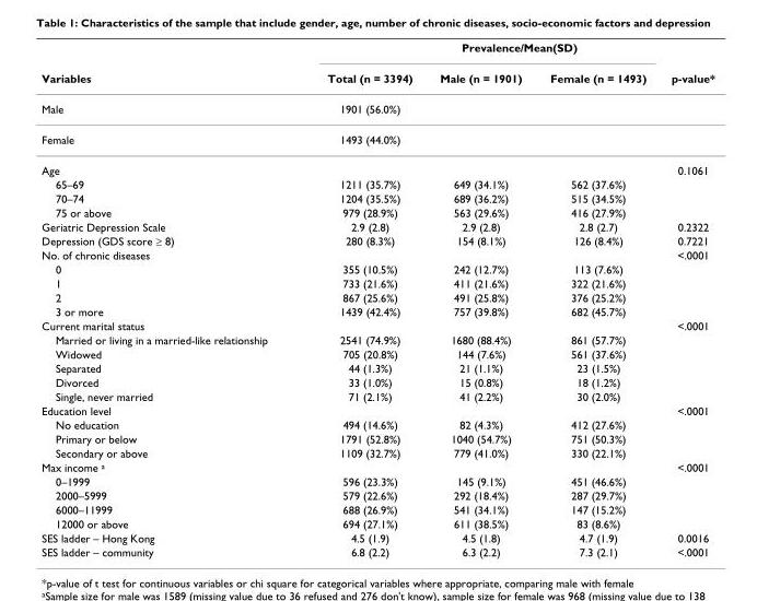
<table><thead><tr><td rowspan="2">Variables</td><td colspan="4">Prevalence/Mean(SD)</td></tr><tr><td>Total (n = 3394)</td><td>Male (n = 1901)</td><td>Female (n = 1493)</td><td>p-value*</td></tr></thead><tbody><tr><td>Male</td><td>1901 (56.0%)</td><td></td><td></td><td></td></tr><tr><td>Female</td><td>1493 (44.0%)</td><td></td><td></td><td></td></tr><tr><td>Age</td><td></td><td></td><td></td><td>0.1061</td></tr><tr><td>65–69</td><td>1211 (35.7%)</td><td>649 (34.1%)</td><td>562 (37.6%)</td><td></td></tr><tr><td>70–74</td><td>1204 (35.5%)</td><td>689 (36.2%)</td><td>515 (34.5%)</td><td></td></tr><tr><td>75 or above</td><td>979 (28.9%)</td><td>563 (29.6%)</td><td>416 (27.9%)</td><td></td></tr><tr><td>Geriatric Depression Scale</td><td>2.9 (2.8)</td><td>2.9 (2.8)</td><td>2.8 (2.7)</td><td>0.2322</td></tr><tr><td>Depression (GDS score ≥ 8)</td><td>280 (8.3%)</td><td>154 (8.1%)</td><td>126 (8.4%)</td><td>0.7221</td></tr><tr><td>No. of chronic diseases</td><td></td><td></td><td></td><td>&lt;.0001</td></tr><tr><td>0</td><td>355 (10.5%)</td><td>242 (12.7%)</td><td>113 (7.6%)</td><td></td></tr><tr><td>1</td><td>733 (21.6%)</td><td>411 (21.6%)</td><td>322 (21.6%)</td><td></td></tr><tr><td>2</td><td>867 (25.6%)</td><td>491 (25.8%)</td><td>376 (25.2%)</td><td></td></tr><tr><td>3 or more</td><td>1439 (42.4%)</td><td>757 (39.8%)</td><td>682 (45.7%)</td><td></td></tr><tr><td>Current marital status</td><td></td><td></td><td></td><td>&lt;.0001</td></tr><tr><td>Married or living in a married-like relationship</td><td>2541 (74.9%)</td><td>1680 (88.4%)</td><td>861 (57.7%)</td><td></td></tr><tr><td>Widowed</td><td>705 (20.8%)</td><td>144 (7.6%)</td><td>561 (37.6%)</td><td></td></tr><tr><td>Separated</td><td>44 (1.3%)</td><td>21 (1.1%)</td><td>23 (1.5%)</td><td></td></tr><tr><td>Divorced</td><td>33 (1.0%)</td><td>15 (0.8%)</td><td>18 (1.2%)</td><td></td></tr><tr><td>Single, never married</td><td>71 (2.1%)</td><td>41 (2.2%)</td><td>30 (2.0%)</td><td></td></tr><tr><td>Education level</td><td></td><td></td><td></td><td>&lt;.0001</td></tr><tr><td>No education</td><td>494 (14.6%)</td><td>82 (4.3%)</td><td>412 (27.6%)</td><td></td></tr><tr><td>Primary or below</td><td>1791 (52.8%)</td><td>1040 (54.7%)</td><td>751 (50.3%)</td><td></td></tr><tr><td>Secondary or above</td><td>1109 (32.7%)</td><td>779 (41.0%)</td><td>330 (22.1%)</td><td></td></tr><tr><td>Max income <sup>a</sup></td><td></td><td></td><td></td><td>&lt;.0001</td></tr><tr><td>0–1999</td><td>596 (23.3%)</td><td>145 (9.1%)</td><td>451 (46.6%)</td><td></td></tr><tr><td>2000–5999</td><td>579 (22.6%)</td><td>292 (18.4%)</td><td>287 (29.7%)</td><td></td></tr><tr><td>6000–11999</td><td>688 (26.9%)</td><td>541 (34.1%)</td><td>147 (15.2%)</td><td></td></tr><tr><td>12000 or above</td><td>694 (27.1%)</td><td>611 (38.5%)</td><td>83 (8.6%)</td><td></td></tr><tr><td>SES ladder – Hong Kong</td><td>4.5 (1.9)</td><td>4.5 (1.8)</td><td>4.7 (1.9)</td><td>0.0016</td></tr><tr><td>SES ladder – community</td><td>6.8 (2.2)</td><td>6.3 (2.2)</td><td>7.3 (2.1)</td><td>&lt;.0001</td></tr></tbody></table>